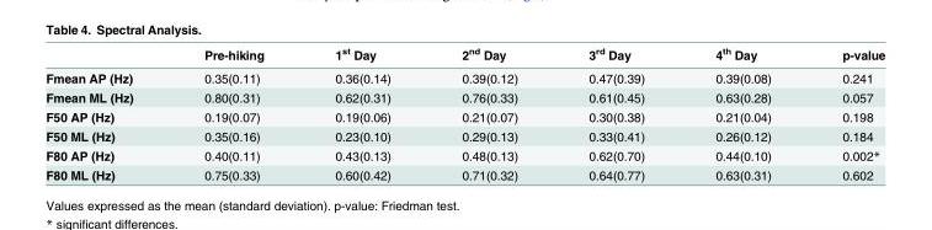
<table><thead><tr><td></td><td>Pre-hiking</td><td>1<sup>st</sup> Day</td><td>2<sup>nd</sup> Day</td><td>3<sup>rd</sup> Day</td><td>4<sup>th</sup> Day</td><td>p-value</td></tr></thead><tbody><tr><td>Fmean AP (Hz)</td><td>0.35(0.11)</td><td>0.36(0.14)</td><td>0.39(0.12)</td><td>0.47(0.39)</td><td>0.39(0.08)</td><td>0.241</td></tr><tr><td>Fmean ML (Hz)</td><td>0.80(0.31)</td><td>0.62(0.31)</td><td>0.76(0.33)</td><td>0.61(0.45)</td><td>0.63(0.28)</td><td>0.057</td></tr><tr><td>F50 AP (Hz)</td><td>0.19(0.07)</td><td>0.19(0.06)</td><td>0.21(0.07)</td><td>0.30(0.38)</td><td>0.21(0.04)</td><td>0.198</td></tr><tr><td>F50 ML (Hz)</td><td>0.35(0.16)</td><td>0.23(0.10)</td><td>0.29(0.13)</td><td>0.33(0.41)</td><td>0.26(0.12)</td><td>0.184</td></tr><tr><td>F80 AP (Hz)</td><td>0.40(0.11)</td><td>0.43(0.13)</td><td>0.48(0.13)</td><td>0.62(0.70)</td><td>0.44(0.10)</td><td>0.002*</td></tr><tr><td>F80 ML (Hz)</td><td>0.75(0.33)</td><td>0.60(0.42)</td><td>0.71(0.32)</td><td>0.64(0.77)</td><td>0.63(0.31)</td><td>0.602</td></tr></tbody></table>